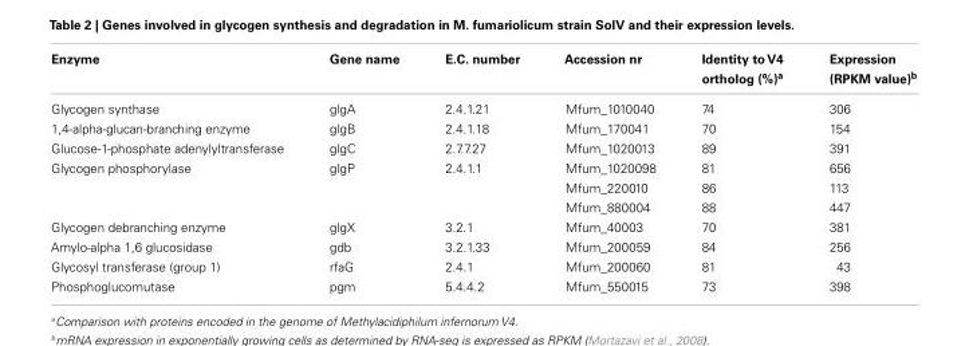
<table><thead><tr><td>Enzyme</td><td>Gene name</td><td>E.C. number</td><td>Accession nr</td><td>Identity to V4 ortholog (%)<sup>a</sup></td><td>Expression (RPKM value)<sup>b</sup></td></tr></thead><tbody><tr><td>Glycogen synthase</td><td>glgA</td><td>2.4.1.21</td><td>Mfum_1010040</td><td>74</td><td>306</td></tr><tr><td>1,4-alpha-glucan-branching enzyme</td><td>glgB</td><td>2.4.1.18</td><td>Mfum_170041</td><td>70</td><td>154</td></tr><tr><td>Glucose-1-phosphate adenylyltransferase</td><td>glgC</td><td>2.7.7.27</td><td>Mfum_1020013</td><td>89</td><td>391</td></tr><tr><td rowspan="3">Glycogen phosphorylase</td><td>glgP</td><td>2.4.1.1</td><td>Mfum_1020098</td><td>81</td><td>656</td></tr><tr><td></td><td></td><td>Mfum_220010</td><td>86</td><td>113</td></tr><tr><td></td><td></td><td>Mfum_880004</td><td>88</td><td>447</td></tr><tr><td>Glycogen debranching enzyme</td><td>glgX</td><td>3.2.1</td><td>Mfum_40003</td><td>70</td><td>381</td></tr><tr><td>Amylo-alpha 1,6 glucosidase</td><td>gdb</td><td>3.2.1.33</td><td>Mfum_200059</td><td>84</td><td>256</td></tr><tr><td>Glycosyl transferase (group 1)</td><td>rfaG</td><td>2.4.1</td><td>Mfum_200060</td><td>81</td><td>43</td></tr><tr><td>Phosphoglucomutase</td><td>pgm</td><td>5.4.4.2</td><td>Mfum_550015</td><td>73</td><td>398</td></tr></tbody></table>